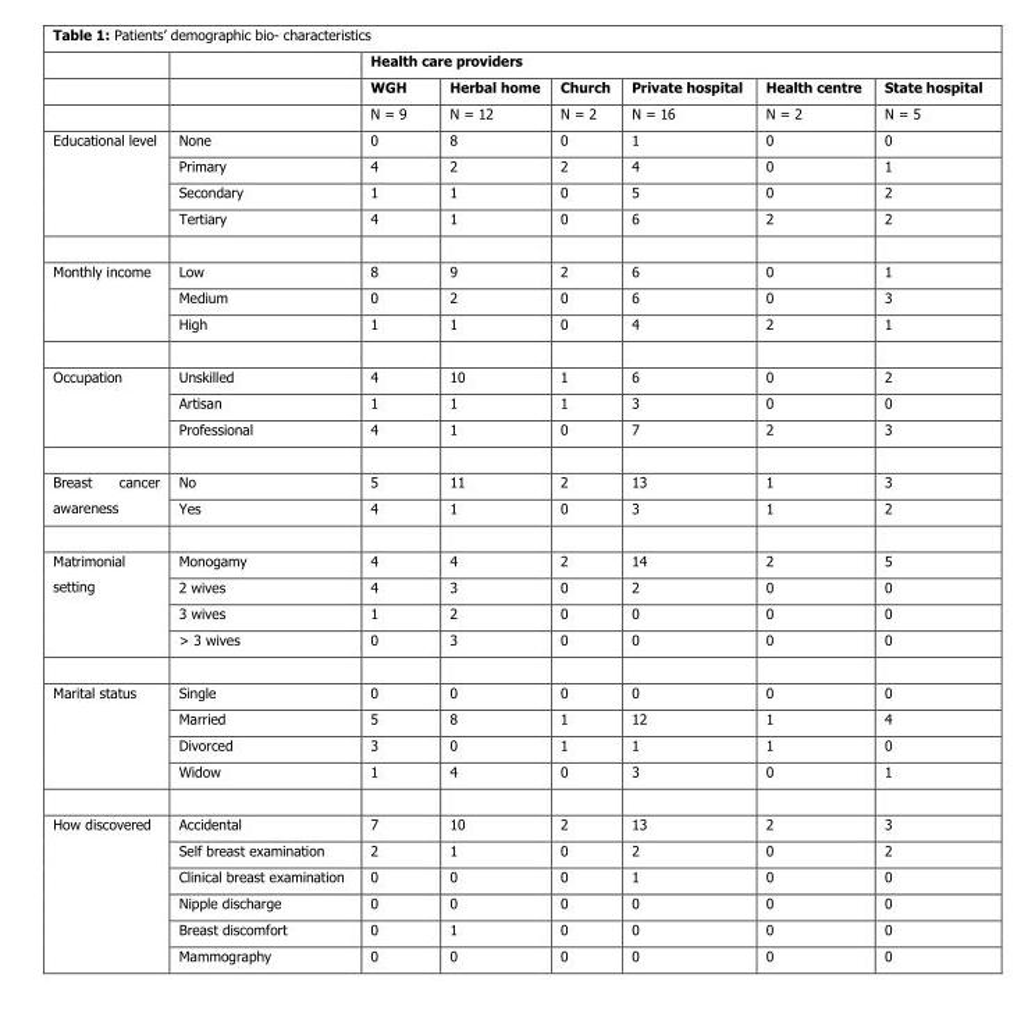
<table><thead><tr><td rowspan="3"></td><td rowspan="3"></td><td colspan="6">Health care providers</td></tr><tr><td rowspan="2">WGH N = 9</td><td rowspan="2">Herbal home N = 12</td><td rowspan="2">Church N = 2</td><td rowspan="2">Private hospital N = 16</td><td rowspan="2">Health centre N = 2</td><td rowspan="2">State hospital N = 5</td></tr><tr></tr></thead><tbody><tr><td rowspan="4">Educational level</td><td>None</td><td>0</td><td>8</td><td>0</td><td>1</td><td>0</td><td>0</td></tr><tr><td>Primary</td><td>4</td><td>2</td><td>2</td><td>4</td><td>0</td><td>1</td></tr><tr><td>Secondary</td><td>1</td><td>1</td><td>0</td><td>5</td><td>0</td><td>2</td></tr><tr><td>Tertiary</td><td>4</td><td>1</td><td>0</td><td>6</td><td>2</td><td>2</td></tr><tr><td rowspan="3">Monthly income</td><td>Low</td><td>8</td><td>9</td><td>2</td><td>6</td><td>0</td><td>1</td></tr><tr><td>Medium</td><td>0</td><td>2</td><td>0</td><td>6</td><td>0</td><td>3</td></tr><tr><td>High</td><td>1</td><td>1</td><td>0</td><td>4</td><td>2</td><td>1</td></tr><tr><td rowspan="3">Occupation</td><td>Unskilled</td><td>4</td><td>10</td><td>1</td><td>6</td><td>0</td><td>2</td></tr><tr><td>Artisan</td><td>1</td><td>1</td><td>1</td><td>3</td><td>0</td><td>0</td></tr><tr><td>Professional</td><td>4</td><td>1</td><td>0</td><td>7</td><td>2</td><td>3</td></tr><tr><td rowspan="2">Breast cancer awareness</td><td>No</td><td>5</td><td>11</td><td>2</td><td>13</td><td>1</td><td>3</td></tr><tr><td>Yes</td><td>4</td><td>1</td><td>0</td><td>3</td><td>1</td><td>2</td></tr><tr><td rowspan="4">Matrimonial setting</td><td>Monogamy</td><td>4</td><td>4</td><td>2</td><td>14</td><td>2</td><td>5</td></tr><tr><td>2 wives</td><td>4</td><td>3</td><td>0</td><td>2</td><td>0</td><td>0</td></tr><tr><td>3 wives</td><td>1</td><td>2</td><td>0</td><td>0</td><td>0</td><td>0</td></tr><tr><td>&gt; 3 wives</td><td>0</td><td>3</td><td>0</td><td>0</td><td>0</td><td>0</td></tr><tr><td rowspan="4">Marital status</td><td>Single</td><td>0</td><td>0</td><td>0</td><td>0</td><td>0</td><td>0</td></tr><tr><td>Married</td><td>5</td><td>8</td><td>1</td><td>12</td><td>1</td><td>4</td></tr><tr><td>Divorced</td><td>3</td><td>0</td><td>1</td><td>1</td><td>1</td><td>0</td></tr><tr><td>Widow</td><td>1</td><td>4</td><td>0</td><td>3</td><td>0</td><td>1</td></tr><tr><td rowspan="6">How discovered</td><td>Accidental</td><td>7</td><td>10</td><td>2</td><td>13</td><td>2</td><td>3</td></tr><tr><td>Self breast examination</td><td>2</td><td>1</td><td>0</td><td>2</td><td>0</td><td>2</td></tr><tr><td>Clinical breast examination</td><td>0</td><td>0</td><td>0</td><td>1</td><td>0</td><td>0</td></tr><tr><td>Nipple discharge</td><td>0</td><td>0</td><td>0</td><td>0</td><td>0</td><td>0</td></tr><tr><td>Breast discomfort</td><td>0</td><td>1</td><td>0</td><td>0</td><td>0</td><td>0</td></tr><tr><td>Mammography</td><td>0</td><td>0</td><td>0</td><td>0</td><td>0</td><td>0</td></tr></tbody></table>